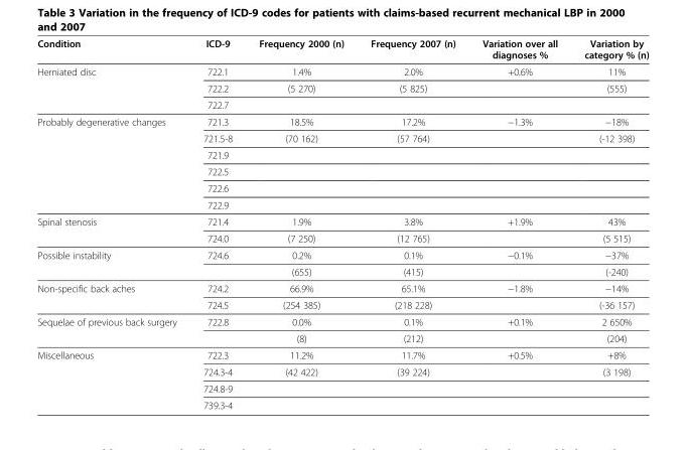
<table><thead><tr><td>Condition</td><td>ICD-9</td><td>Frequency 2000 (n)</td><td>Frequency 2007 (n)</td><td>Variation over all diagnoses %</td><td>Variation by category % (n)</td></tr></thead><tbody><tr><td rowspan="3">Herniated disc</td><td>722.1</td><td>1.4%</td><td>2.0%</td><td>+0.6%</td><td>11%</td></tr><tr><td>722.2</td><td>(5 270)</td><td>(5 825)</td><td></td><td>(555)</td></tr><tr><td>722.7</td><td></td><td></td><td></td><td></td></tr><tr><td rowspan="6">Probably degenerative changes</td><td>721.3</td><td>18.5%</td><td>17.2%</td><td>−1.3%</td><td>−18%</td></tr><tr><td>721.5-8</td><td>(70 162)</td><td>(57 764)</td><td></td><td>(-12 398)</td></tr><tr><td>721.9</td><td></td><td></td><td></td><td></td></tr><tr><td>722.5</td><td></td><td></td><td></td><td></td></tr><tr><td>722.6</td><td></td><td></td><td></td><td></td></tr><tr><td>722.9</td><td></td><td></td><td></td><td></td></tr><tr><td rowspan="2">Spinal stenosis</td><td>721.4</td><td>1.9%</td><td>3.8%</td><td>+1.9%</td><td>43%</td></tr><tr><td>724.0</td><td>(7 250)</td><td>(12 765)</td><td></td><td>(5 515)</td></tr><tr><td rowspan="2">Possible instability</td><td>724.6</td><td>0.2%</td><td>0.1%</td><td>−0.1%</td><td>−37%</td></tr><tr><td></td><td>(655)</td><td>(415)</td><td></td><td>(-240)</td></tr><tr><td rowspan="2">Non-specific back aches</td><td>724.2</td><td>66.9%</td><td>65.1%</td><td>−1.8%</td><td>−14%</td></tr><tr><td>724.5</td><td>(254 385)</td><td>(218 228)</td><td></td><td>(-36 157)</td></tr><tr><td rowspan="2">Sequelae of previous back surgery</td><td>722.8</td><td>0.0%</td><td>0.1%</td><td>+0.1%</td><td>2 650%</td></tr><tr><td></td><td>(8)</td><td>(212)</td><td></td><td>(204)</td></tr><tr><td rowspan="4">Miscellaneous</td><td>722.3</td><td>11.2%</td><td>11.7%</td><td>+0.5%</td><td>+8%</td></tr><tr><td>724.3-4</td><td>(42 422)</td><td>(39 224)</td><td></td><td>(3 198)</td></tr><tr><td>724.8-9</td><td></td><td></td><td></td><td></td></tr><tr><td>739.3-4</td><td></td><td></td><td></td><td></td></tr></tbody></table>